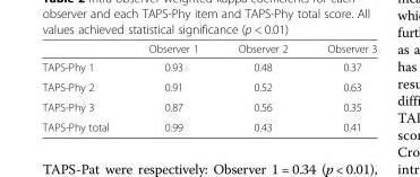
<table><thead><tr><td></td><td>Observer 1</td><td>Observer 2</td><td>Observer 3</td></tr></thead><tbody><tr><td>TAPS-Phy 1</td><td>0.93</td><td>0.48</td><td>0.37</td></tr><tr><td>TAPS-Phy 2</td><td>0.91</td><td>0.52</td><td>0.63</td></tr><tr><td>TAPS-Phy 3</td><td>0.87</td><td>0.56</td><td>0.35</td></tr><tr><td>TAPS-Phy total</td><td>0.99</td><td>0.43</td><td>0.41</td></tr></tbody></table>